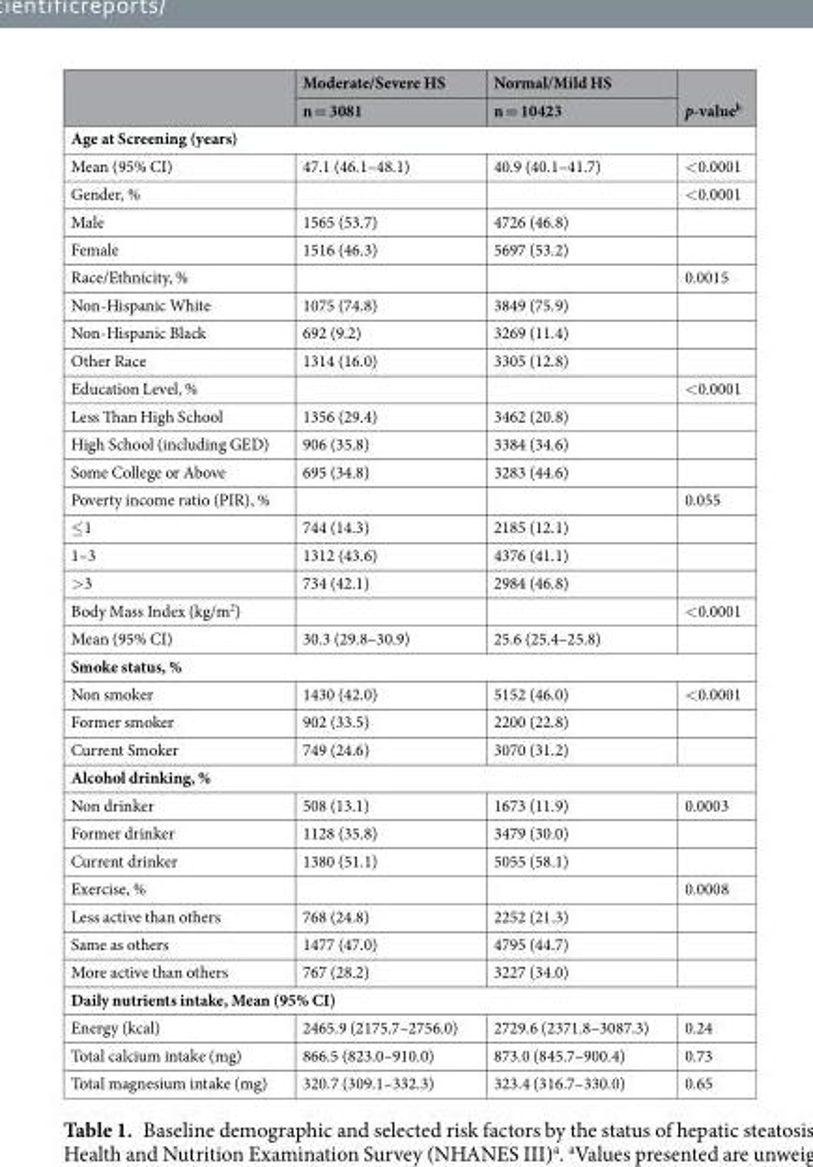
<table><thead><tr><td rowspan="2"></td><td rowspan="2">Moderate/Severe HS n = 3081</td><td rowspan="2">Normal/Mild HS n = 10423</td><td rowspan="2">p-value<sup>b</sup></td></tr><tr></tr></thead><tbody><tr><td colspan="4">Age at Screening (years)</td></tr><tr><td>Mean (95% CI)</td><td>47.1 (46.1–48.1)</td><td>40.9 (40.1–41.7)</td><td>&lt;0.0001</td></tr><tr><td>Gender, %</td><td></td><td></td><td>&lt;0.0001</td></tr><tr><td>Male</td><td>1565 (53.7)</td><td>4726 (46.8)</td><td></td></tr><tr><td>Female</td><td>1516 (46.3)</td><td>5697 (53.2)</td><td></td></tr><tr><td>Race/Ethnicity, %</td><td></td><td></td><td>0.0015</td></tr><tr><td>Non-Hispanic White</td><td>1075 (74.8)</td><td>3849 (75.9)</td><td></td></tr><tr><td>Non-Hispanic Black</td><td>692 (9.2)</td><td>3269 (11.4)</td><td></td></tr><tr><td>Other Race</td><td>1314 (16.0)</td><td>3305 (12.8)</td><td></td></tr><tr><td>Education Level, %</td><td></td><td></td><td>&lt;0.0001</td></tr><tr><td>Less Than High School</td><td>1356 (29.4)</td><td>3462 (20.8)</td><td></td></tr><tr><td>High School (including GED)</td><td>906 (35.8)</td><td>3384 (34.6)</td><td></td></tr><tr><td>Some College or Above</td><td>695 (34.8)</td><td>3283 (44.6)</td><td></td></tr><tr><td>Poverty income ratio (PIR), %</td><td></td><td></td><td>0.055</td></tr><tr><td>≤1</td><td>744 (14.3)</td><td>2185 (12.1)</td><td></td></tr><tr><td>1–3</td><td>1312 (43.6)</td><td>4376 (41.1)</td><td></td></tr><tr><td>&gt;3</td><td>734 (42.1)</td><td>2984 (46.8)</td><td></td></tr><tr><td>Body Mass Index (kg/m<sup>2</sup>)</td><td></td><td></td><td>&lt;0.0001</td></tr><tr><td>Mean (95% CI)</td><td>30.3 (29.8–30.9)</td><td>25.6 (25.4–25.8)</td><td></td></tr><tr><td colspan="4">Smoke status, %</td></tr><tr><td>Non smoker</td><td>1430 (42.0)</td><td>5152 (46.0)</td><td>&lt;0.0001</td></tr><tr><td>Former smoker</td><td>902 (33.5)</td><td>2200 (22.8)</td><td></td></tr><tr><td>Current Smoker</td><td>749 (24.6)</td><td>3070 (31.2)</td><td></td></tr><tr><td colspan="4">Alcohol drinking, %</td></tr><tr><td>Non drinker</td><td>508 (13.1)</td><td>1673 (11.9)</td><td>0.0003</td></tr><tr><td>Former drinker</td><td>1128 (35.8)</td><td>3479 (30.0)</td><td></td></tr><tr><td>Current drinker</td><td>1380 (51.1)</td><td>5055 (58.1)</td><td></td></tr><tr><td>Exercise, %</td><td></td><td></td><td>0.0008</td></tr><tr><td>Less active than others</td><td>768 (24.8)</td><td>2252 (21.3)</td><td></td></tr><tr><td>Same as others</td><td>1477 (47.0)</td><td>4795 (44.7)</td><td></td></tr><tr><td>More active than others</td><td>767 (28.2)</td><td>3227 (34.0)</td><td></td></tr><tr><td colspan="4">Daily nutrients intake, Mean (95% CI)</td></tr><tr><td>Energy (kcal)</td><td>2465.9 (2175.7–2756.0)</td><td>2729.6 (2371.8–3087.3)</td><td>0.24</td></tr><tr><td>Total calcium intake (mg)</td><td>866.5 (823.0–910.0)</td><td>873.0 (845.7–900.4)</td><td>0.73</td></tr><tr><td>Total magnesium intake (mg)</td><td>320.7 (309.1–332.3)</td><td>323.4 (316.7–330.0)</td><td>0.65</td></tr></tbody></table>